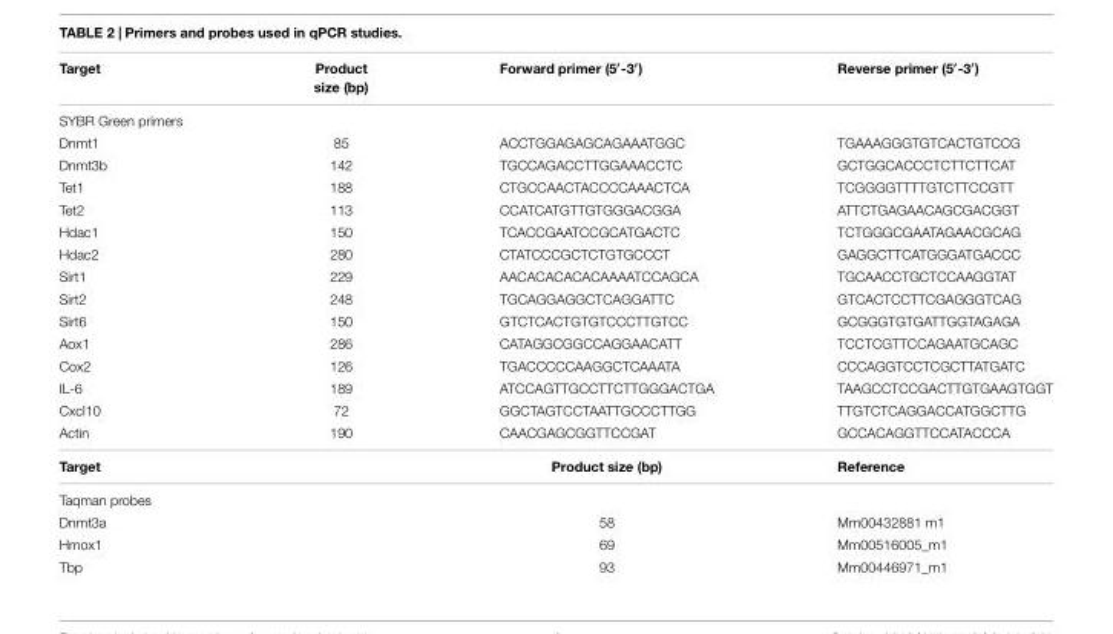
<table><thead><tr><td>Target</td><td>Product size (bp)</td><td>Forward primer (5′-3′)</td><td>Reverse primer (5′-3′)</td></tr></thead><tbody><tr><td colspan="4">SYBR Green primers</td></tr><tr><td>Dnmt1</td><td>85</td><td>ACCTGGAGAGCAGAAATGGC</td><td>TGAAAGGGTGTCACTGTCCG</td></tr><tr><td>Dnmt3b</td><td>142</td><td>TGCCAGACCTTGGAAACCTC</td><td>GCTGGCACCCTCTTCTTCAT</td></tr><tr><td>Tet1</td><td>188</td><td>CTGCCAACTACCCCAAACTCA</td><td>TCGGGGTTTTGTCTTCCGTT</td></tr><tr><td>Tet2</td><td>113</td><td>CCATCATGTTGTGGGACGGA</td><td>ATTCTGAGAACAGCGACGGT</td></tr><tr><td>Hdac1</td><td>150</td><td>TCACCGAATCCGCATGACTC</td><td>TCTGGGCGAATAGAACGCAG</td></tr><tr><td>Hdac2</td><td>280</td><td>CTATCCCGCTCTGTGCCCT</td><td>GAGGCTTCATGGGATGACCC</td></tr><tr><td>Sirt1</td><td>229</td><td>AACACACACACAAAATCCAGCA</td><td>TGCAACCTGCTCCAAGGTAT</td></tr><tr><td>Sirt2</td><td>248</td><td>TGCAGGAGGCTCAGGATTC</td><td>GTCACTCCTTCGAGGGTCAG</td></tr><tr><td>Sirt6</td><td>150</td><td>GTCTCACTGTGTCCCTTGTCC</td><td>GCGGGTGTGATTGGTAGAGA</td></tr><tr><td>Aox1</td><td>286</td><td>CATAGGCGGCCAGGAACATT</td><td>TCCTCGTTCCAGAATGCAGC</td></tr><tr><td>Cox2</td><td>126</td><td>TGACCCCCAAGGCTCAAATA</td><td>CCCAGGTCCTCGCTTATGATC</td></tr><tr><td>IL-6</td><td>189</td><td>ATCCAGTTGCCTTCTTGGGACTGA</td><td>TAAGCCTCCGACTTGTGAAGTGGT</td></tr><tr><td>Cxcl10</td><td>72</td><td>GGCTAGTCCTAATTGCCCTTGG</td><td>TTGTCTCAGGACCATGGCTTG</td></tr><tr><td>Actin</td><td>190</td><td>CAACGAGCGGTTCCGAT</td><td>GCCACAGGTTCCATACCCA</td></tr><tr><td colspan="2">Target</td><td>Product size (bp)</td><td>Reference</td></tr><tr><td colspan="4">Taqman probes</td></tr><tr><td colspan="2">Dnmt3a</td><td>58</td><td>Mm00432881 m1</td></tr><tr><td colspan="2">Hmox1</td><td>69</td><td>Mm00516005_m1</td></tr><tr><td colspan="2">Tbp</td><td>93</td><td>Mm00446971_m1</td></tr></tbody></table>